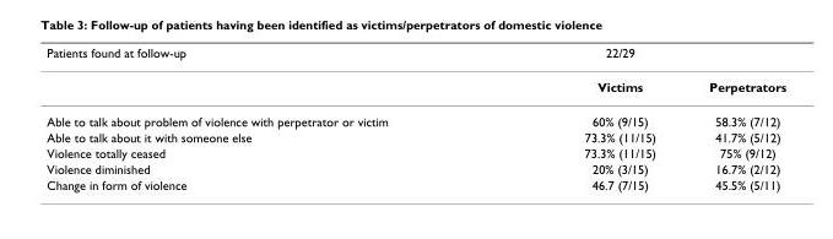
<table><thead><tr><td>Patients found at follow-up</td><td>22/29</td><td></td></tr></thead><tbody><tr><td></td><td>Victims</td><td>Perpetrators</td></tr><tr><td>Able to talk about problem of violence with perpetrator or victim</td><td>60% (9/15)</td><td>58.3% (7/12)</td></tr><tr><td>Able to talk about it with someone else</td><td>73.3% (11/15)</td><td>41.7% (5/12)</td></tr><tr><td>Violence totally ceased</td><td>73.3% (11/15)</td><td>75% (9/12)</td></tr><tr><td>Violence diminished</td><td>20% (3/15)</td><td>16.7% (2/12)</td></tr><tr><td>Change in form of violence</td><td>46.7 (7/15)</td><td>45.5% (5/11)</td></tr></tbody></table>